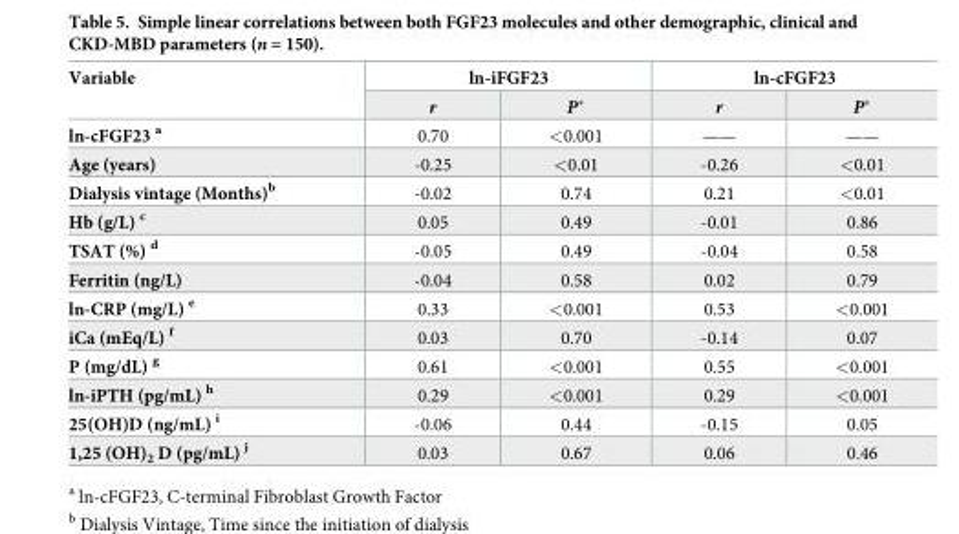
<table><thead><tr><td rowspan="2">Variable</td><td colspan="2">ln-iFGF23</td><td colspan="2">ln-cFGF23</td></tr><tr><td>r</td><td>P*</td><td>r</td><td>P*</td></tr></thead><tbody><tr><td>ln-cFGF23 <sup>a</sup></td><td>0.70</td><td>&lt;0.001</td><td>——</td><td>——</td></tr><tr><td>Age (years)</td><td>-0.25</td><td>&lt;0.01</td><td>-0.26</td><td>&lt;0.01</td></tr><tr><td>Dialysis vintage (Months)<sup>b</sup></td><td>-0.02</td><td>0.74</td><td>0.21</td><td>&lt;0.01</td></tr><tr><td>Hb (g/L) <sup>c</sup></td><td>0.05</td><td>0.49</td><td>-0.01</td><td>0.86</td></tr><tr><td>TSAT (%) <sup>d</sup></td><td>-0.05</td><td>0.49</td><td>-0.04</td><td>0.58</td></tr><tr><td>Ferritin (ng/L)</td><td>-0.04</td><td>0.58</td><td>0.02</td><td>0.79</td></tr><tr><td>ln-CRP (mg/L) <sup>e</sup></td><td>0.33</td><td>&lt;0.001</td><td>0.53</td><td>&lt;0.001</td></tr><tr><td>iCa (mEq/L) <sup>f</sup></td><td>0.03</td><td>0.70</td><td>-0.14</td><td>0.07</td></tr><tr><td>P (mg/dL) <sup>g</sup></td><td>0.61</td><td>&lt;0.001</td><td>0.55</td><td>&lt;0.001</td></tr><tr><td>ln-iPTH (pg/mL) <sup>h</sup></td><td>0.29</td><td>&lt;0.001</td><td>0.29</td><td>&lt;0.001</td></tr><tr><td>25(OH)D (ng/mL) <sup>i</sup></td><td>-0.06</td><td>0.44</td><td>-0.15</td><td>0.05</td></tr><tr><td>1,25 (OH)<sub>2</sub> D (pg/mL) <sup>j</sup></td><td>0.03</td><td>0.67</td><td>0.06</td><td>0.46</td></tr></tbody></table>